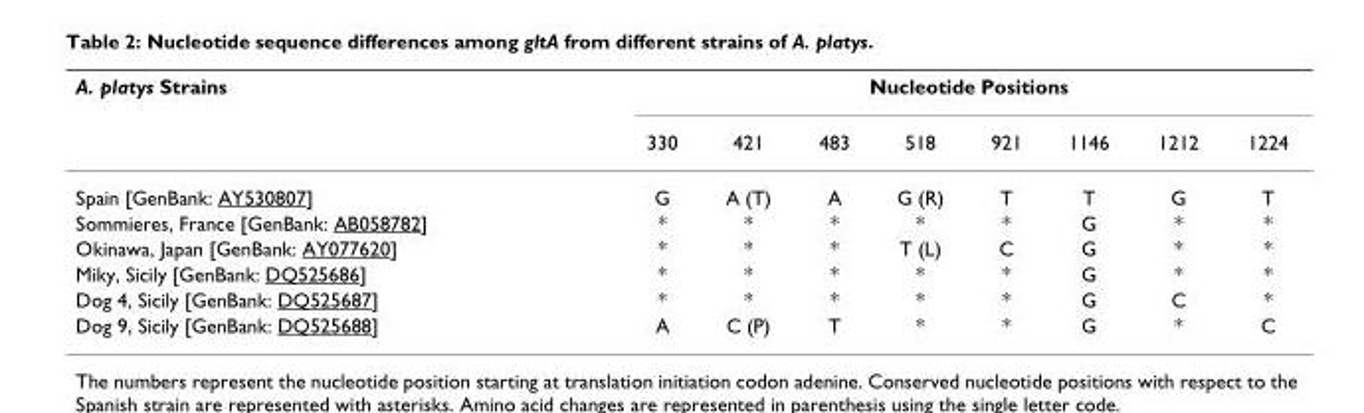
<table><thead><tr><td rowspan="2">A. platys Strains</td><td colspan="8">Nucleotide Positions</td></tr><tr><td>330</td><td>421</td><td>483</td><td>518</td><td>921</td><td>1146</td><td>1212</td><td>1224</td></tr></thead><tbody><tr><td>Spain [GenBank: AY530807]</td><td>G</td><td>A (T)</td><td>A</td><td>G (R)</td><td>T</td><td>T</td><td>G</td><td>T</td></tr><tr><td>Sommieres, France [GenBank: AB058782]</td><td>*</td><td>*</td><td>*</td><td>*</td><td>*</td><td>G</td><td>*</td><td>*</td></tr><tr><td>Okinawa, Japan [GenBank: AY077620]</td><td>*</td><td>*</td><td>*</td><td>T (L)</td><td>C</td><td>G</td><td>*</td><td>*</td></tr><tr><td>Miky, Sicily [GenBank: DQ525686]</td><td>*</td><td>*</td><td>*</td><td>*</td><td>*</td><td>G</td><td>*</td><td>*</td></tr><tr><td>Dog 4, Sicily [GenBank: DQ525687]</td><td>*</td><td>*</td><td>*</td><td>*</td><td>*</td><td>G</td><td>C</td><td>*</td></tr><tr><td>Dog 9, Sicily [GenBank: DQ525688]</td><td>A</td><td>C (P)</td><td>T</td><td>*</td><td>*</td><td>G</td><td>*</td><td>C</td></tr></tbody></table>